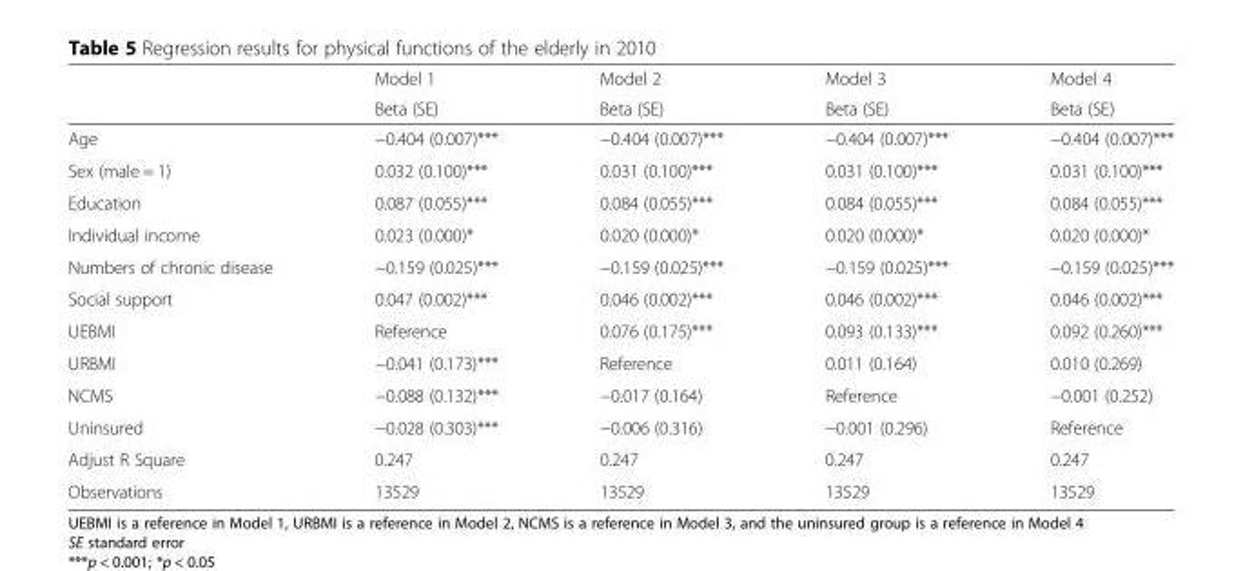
<table><thead><tr><td rowspan="2"></td><td rowspan="2">Model 1 Beta (SE)</td><td rowspan="2">Model 2 Beta (SE)</td><td rowspan="2">Model 3 Beta (SE)</td><td rowspan="2">Model 4 Beta (SE)</td></tr><tr></tr></thead><tbody><tr><td>Age</td><td>−0.404 (0.007)***</td><td>−0.404 (0.007)***</td><td>−0.404 (0.007)***</td><td>−0.404 (0.007)***</td></tr><tr><td>Sex (male = 1)</td><td>0.032 (0.100)***</td><td>0.031 (0.100)***</td><td>0.031 (0.100)***</td><td>0.031 (0.100)***</td></tr><tr><td>Education</td><td>0.087 (0.055)***</td><td>0.084 (0.055)***</td><td>0.084 (0.055)***</td><td>0.084 (0.055)***</td></tr><tr><td>Individual income</td><td>0.023 (0.000)*</td><td>0.020 (0.000)*</td><td>0.020 (0.000)*</td><td>0.020 (0.000)*</td></tr><tr><td>Numbers of chronic disease</td><td>−0.159 (0.025)***</td><td>−0.159 (0.025)***</td><td>−0.159 (0.025)***</td><td>−0.159 (0.025)***</td></tr><tr><td>Social support</td><td>0.047 (0.002)***</td><td>0.046 (0.002)***</td><td>0.046 (0.002)***</td><td>0.046 (0.002)***</td></tr><tr><td>UEBMI</td><td>Reference</td><td>0.076 (0.175)***</td><td>0.093 (0.133)***</td><td>0.092 (0.260)***</td></tr><tr><td>URBMI</td><td>−0.041 (0.173)***</td><td>Reference</td><td>0.011 (0.164)</td><td>0.010 (0.269)</td></tr><tr><td>NCMS</td><td>−0.088 (0.132)***</td><td>−0.017 (0.164)</td><td>Reference</td><td>−0.001 (0.252)</td></tr><tr><td>Uninsured</td><td>−0.028 (0.303)***</td><td>−0.006 (0.316)</td><td>−0.001 (0.296)</td><td>Reference</td></tr><tr><td>Adjust R Square</td><td>0.247</td><td>0.247</td><td>0.247</td><td>0.247</td></tr><tr><td>Observations</td><td>13529</td><td>13529</td><td>13529</td><td>13529</td></tr></tbody></table>